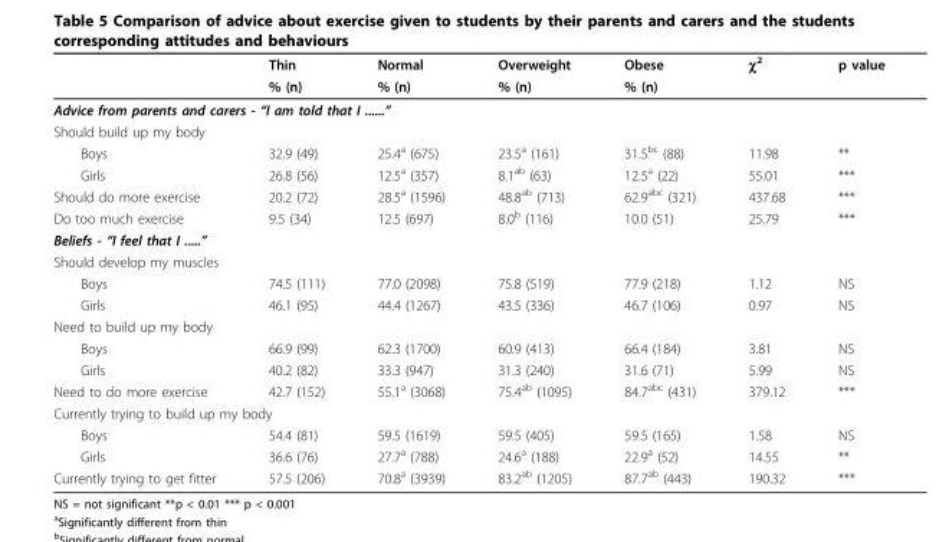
<table><thead><tr><td rowspan="2"></td><td rowspan="2">Thin % (n)</td><td rowspan="2">Normal % (n)</td><td rowspan="2">Overweight % (n)</td><td rowspan="2">Obese % (n)</td><td rowspan="2">χ<sup>2</sup></td><td rowspan="2">p value</td></tr><tr></tr></thead><tbody><tr><td colspan="7">Advice from parents and carers - “I am told that I ......”</td></tr><tr><td colspan="7">Should build up my body</td></tr><tr><td>Boys</td><td>32.9 (49)</td><td>25.4<sup>a</sup> (675)</td><td>23.5<sup>a</sup> (161)</td><td>31.5<sup>bc</sup> (88)</td><td>11.98</td><td>**</td></tr><tr><td>Girls</td><td>26.8 (56)</td><td>12.5<sup>a</sup> (357)</td><td>8.1<sup>ab</sup> (63)</td><td>12.5<sup>a</sup> (22)</td><td>55.01</td><td>***</td></tr><tr><td>Should do more exercise</td><td>20.2 (72)</td><td>28.5<sup>a</sup> (1596)</td><td>48.8<sup>ab</sup> (713)</td><td>62.9<sup>abc</sup> (321)</td><td>437.68</td><td>***</td></tr><tr><td>Do too much exercise</td><td>9.5 (34)</td><td>12.5 (697)</td><td>8.0<sup>b</sup> (116)</td><td>10.0 (51)</td><td>25.79</td><td>***</td></tr><tr><td colspan="7">Beliefs - “I feel that I .....”</td></tr><tr><td colspan="7">Should develop my muscles</td></tr><tr><td>Boys</td><td>74.5 (111)</td><td>77.0 (2098)</td><td>75.8 (519)</td><td>77.9 (218)</td><td>1.12</td><td>NS</td></tr><tr><td>Girls</td><td>46.1 (95)</td><td>44.4 (1267)</td><td>43.5 (336)</td><td>46.7 (106)</td><td>0.97</td><td>NS</td></tr><tr><td colspan="7">Need to build up my body</td></tr><tr><td>Boys</td><td>66.9 (99)</td><td>62.3 (1700)</td><td>60.9 (413)</td><td>66.4 (184)</td><td>3.81</td><td>NS</td></tr><tr><td>Girls</td><td>40.2 (82)</td><td>33.3 (947)</td><td>31.3 (240)</td><td>31.6 (71)</td><td>5.99</td><td>NS</td></tr><tr><td>Need to do more exercise</td><td>42.7 (152)</td><td>55.1<sup>a</sup> (3068)</td><td>75.4<sup>ab</sup> (1095)</td><td>84.7<sup>abc</sup> (431)</td><td>379.12</td><td>***</td></tr><tr><td colspan="7">Currently trying to build up my body</td></tr><tr><td>Boys</td><td>54.4 (81)</td><td>59.5 (1619)</td><td>59.5 (405)</td><td>59.5 (165)</td><td>1.58</td><td>NS</td></tr><tr><td>Girls</td><td>36.6 (76)</td><td>27.7<sup>a</sup> (788)</td><td>24.6<sup>a</sup> (188)</td><td>22.9<sup>a</sup> (52)</td><td>14.55</td><td>**</td></tr><tr><td>Currently trying to get fitter</td><td>57.5 (206)</td><td>70.8<sup>a</sup> (3939)</td><td>83.2<sup>ab</sup> (1205)</td><td>87.7<sup>ab</sup> (443)</td><td>190.32</td><td>***</td></tr></tbody></table>